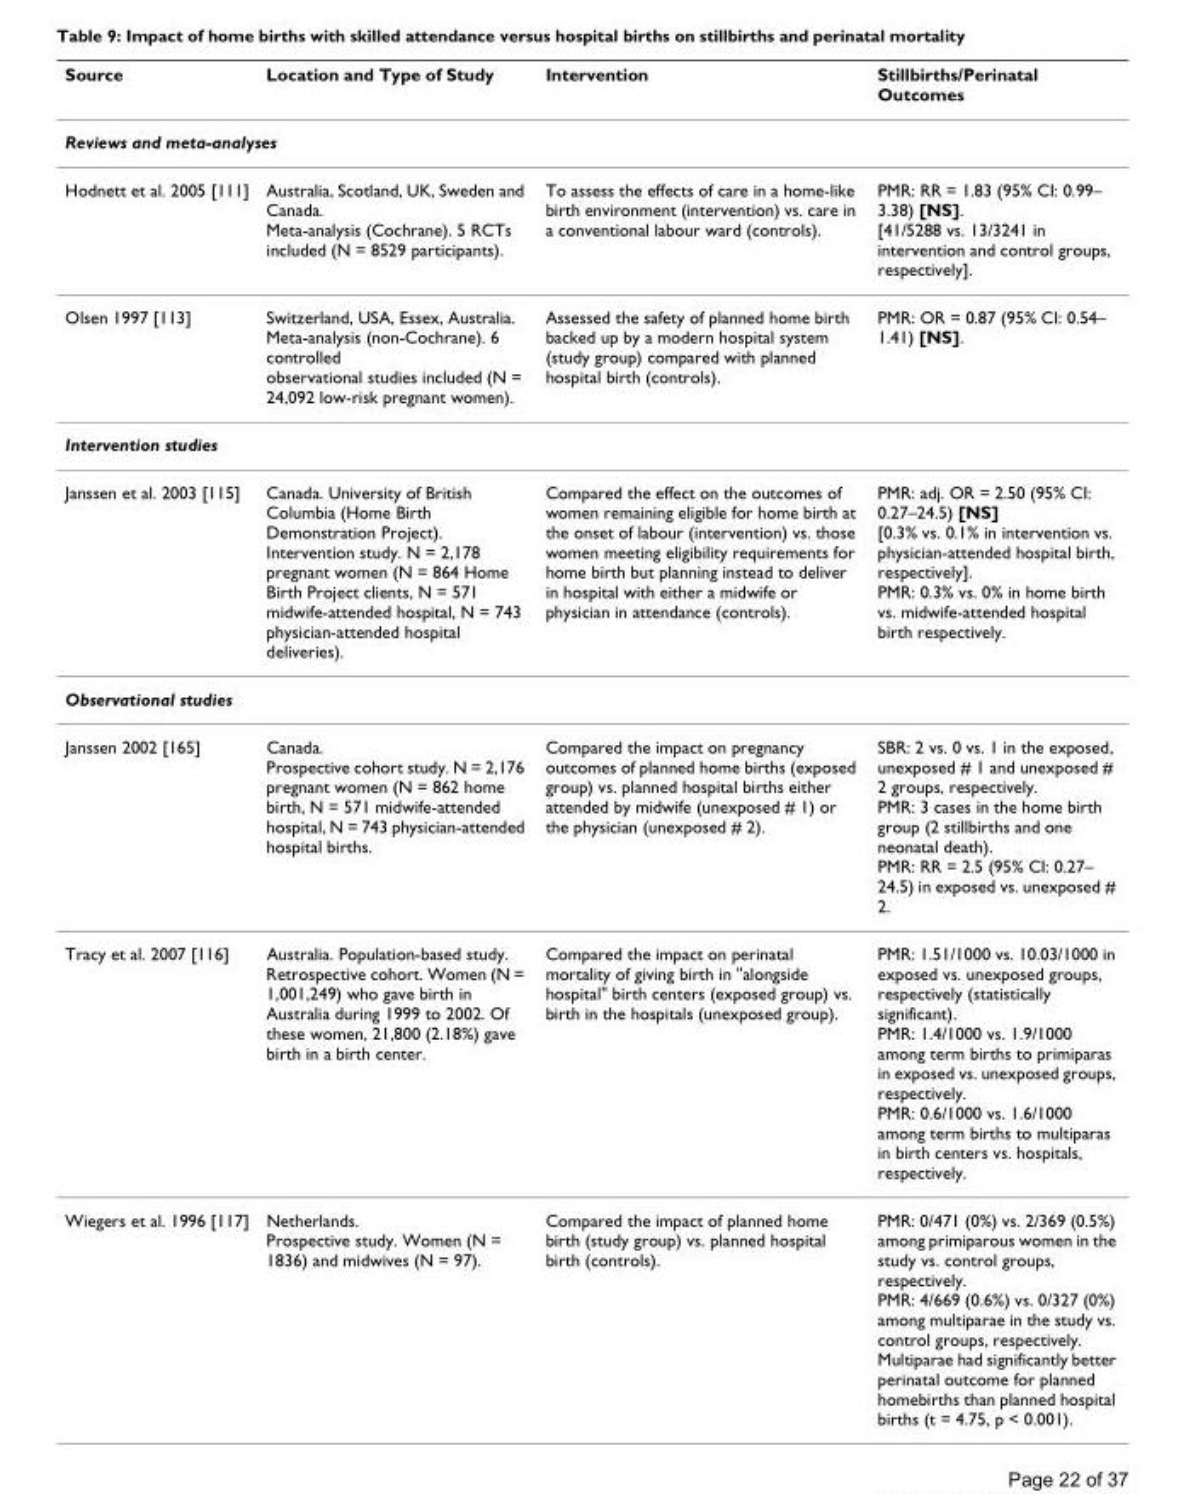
<table><thead><tr><td>Source</td><td>Location and Type of Study</td><td>Intervention</td><td>Stillbirths/Perinatal Outcomes</td></tr></thead><tbody><tr><td colspan="4">Reviews and meta-analyses</td></tr><tr><td>Hodnett et al. 2005 [111]</td><td>Australia, Scotland, UK, Sweden and Canada. Meta-analysis (Cochrane). 5 RCTs included (N = 8529 participants).</td><td>To assess the effects of care in a home-like birth environment (intervention) vs. care in a conventional labour ward (controls).</td><td>PMR: RR = 1.83 (95% CI: 0.99– 3.38) [NS]. [41/5288 vs. 13/3241 in intervention and control groups, respectively].</td></tr><tr><td>Olsen 1997 [113]</td><td>Switzerland, USA, Essex, Australia. Meta-analysis (non-Cochrane). 6 controlled observational studies included (N = 24,092 low-risk pregnant women).</td><td>Assessed the safety of planned home birth backed up by a modern hospital system (study group) compared with planned hospital birth (controls).</td><td>PMR: OR = 0.87 (95% CI: 0.54– 1.41) [NS].</td></tr><tr><td colspan="4">Intervention studies</td></tr><tr><td>Janssen et al. 2003 [115]</td><td>Canada. University of British Columbia (Home Birth Demonstration Project). Intervention study. N = 2,178 pregnant women (N = 864 Home Birth Project clients, N = 571 midwife-attended hospital, N = 743 physician-attended hospital deliveries).</td><td>Compared the effect on the outcomes of women remaining eligible for home birth at the onset of labour (intervention) vs. those women meeting eligibility requirements for home birth but planning instead to deliver in hospital with either a midwife or physician in attendance (controls).</td><td>PMR: adj. OR = 2.50 (95% CI: 0.27–24.5) [NS] [0.3% vs. 0.1% in intervention vs. physician-attended hospital birth, respectively]. PMR: 0.3% vs. 0% in home birth vs. midwife-attended hospital birth respectively.</td></tr><tr><td colspan="4">Observational studies</td></tr><tr><td>Janssen 2002 [165]</td><td>Canada. Prospective cohort study. N = 2,176 pregnant women (N = 862 home birth, N = 571 midwife-attended hospital, N = 743 physician-attended hospital births.</td><td>Compared the impact on pregnancy outcomes of planned home births (exposed group) vs. planned hospital births either attended by midwife (unexposed # 1) or the physician (unexposed # 2).</td><td>SBR: 2 vs. 0 vs. 1 in the exposed, unexposed # 1 and unexposed # 2 groups, respectively. PMR: 3 cases in the home birth group (2 stillbirths and one neonatal death). PMR: RR = 2.5 (95% CI: 0.27– 24.5) in exposed vs. unexposed # 2.</td></tr><tr><td>Tracy et al. 2007 [116]</td><td>Australia. Population-based study. Retrospective cohort. Women (N = 1,001,249) who gave birth in Australia during 1999 to 2002. Of these women, 21,800 (2.18%) gave birth in a birth center.</td><td>Compared the impact on perinatal mortality of giving birth in &quot;alongside hospital&quot; birth centers (exposed group) vs. birth in the hospitals (unexposed group).</td><td>PMR: 1.51/1000 vs. 10.03/1000 in exposed vs. unexposed groups, respectively (statistically significant). PMR: 1.4/1000 vs. 1.9/1000 among term births to primiparas in exposed vs. unexposed groups, respectively. PMR: 0.6/1000 vs. 1.6/1000 among term births to multiparas in birth centers vs. hospitals, respectively.</td></tr><tr><td>Wiegers et al. 1996 [117]</td><td>Netherlands. Prospective study. Women (N = 1836) and midwives (N = 97).</td><td>Compared the impact of planned home birth (study group) vs. planned hospital birth (controls).</td><td>PMR: 0/471 (0%) vs. 2/369 (0.5%) among primiparous women in the study vs. control groups, respectively. PMR: 4/669 (0.6%) vs. 0/327 (0%) among multiparae in the study vs. control groups, respectively. Multiparae had significantly better perinatal outcome for planned homebirths than planned hospital births (t = 4.75, p &lt; 0.001).</td></tr></tbody></table>